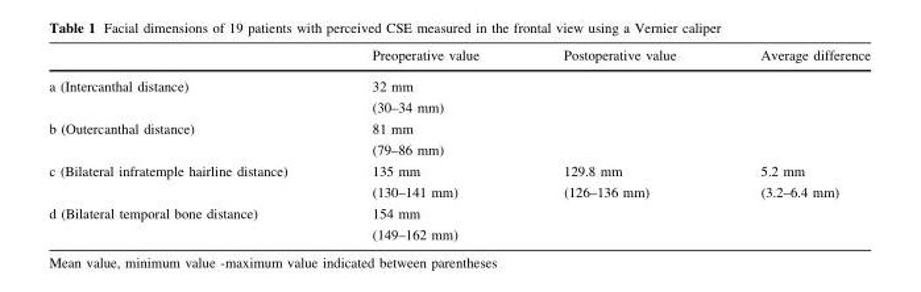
<table><thead><tr><td></td><td>Preoperative value</td><td>Postoperative value</td><td>Average difference</td></tr></thead><tbody><tr><td>a (Intercanthal distance)</td><td>32 mm (30–34 mm)</td><td></td><td></td></tr><tr><td>b (Outercanthal distance)</td><td>81 mm (79–86 mm)</td><td></td><td></td></tr><tr><td>c (Bilateral infratemple hairline distance)</td><td>135 mm (130–141 mm)</td><td>129.8 mm (126–136 mm)</td><td>5.2 mm (3.2–6.4 mm)</td></tr><tr><td>d (Bilateral temporal bone distance)</td><td>154 mm (149–162 mm)</td><td></td><td></td></tr></tbody></table>